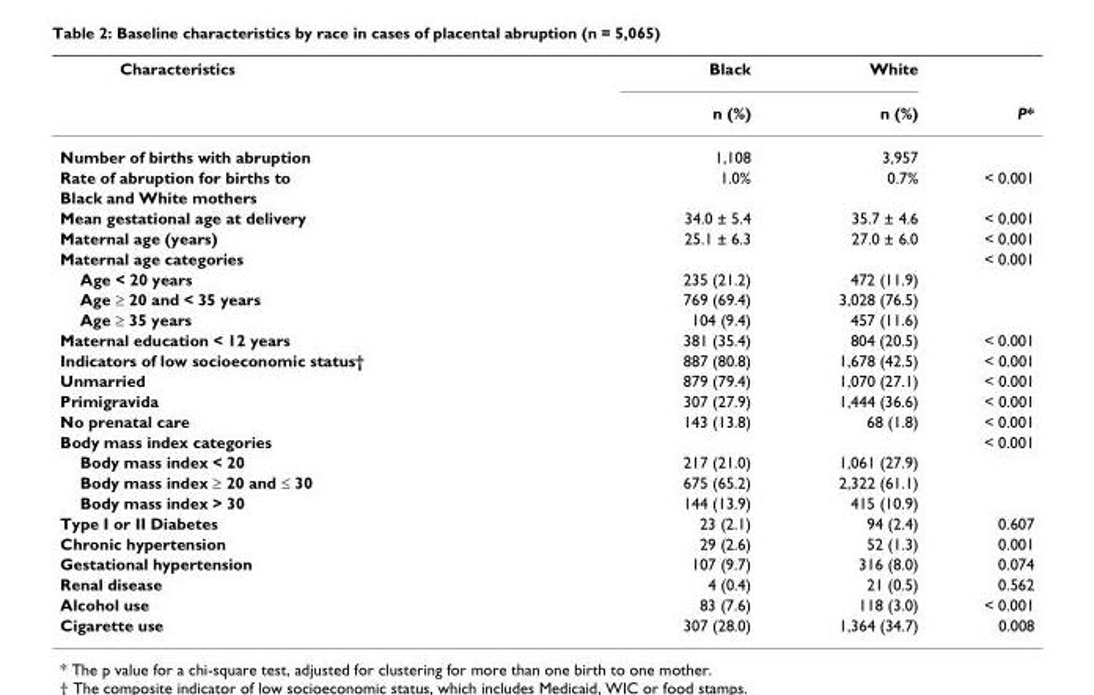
<table><thead><tr><td rowspan="2">Characteristics</td><td rowspan="2">Black n (%)</td><td rowspan="2">White n (%)</td><td rowspan="2">P*</td></tr><tr></tr></thead><tbody><tr><td>Number of births with abruption</td><td>1,108</td><td>3,957</td><td></td></tr><tr><td>Rate of abruption for births to</td><td>1.0%</td><td>0.7%</td><td>&lt; 0.001</td></tr><tr><td colspan="4">Black and White mothers</td></tr><tr><td>Mean gestational age at delivery</td><td>34.0 ± 5.4</td><td>35.7 ± 4.6</td><td>&lt; 0.001</td></tr><tr><td>Maternal age (years)</td><td>25.1 ± 6.3</td><td>27.0 ± 6.0</td><td>&lt; 0.001</td></tr><tr><td>Maternal age categories</td><td></td><td></td><td>&lt; 0.001</td></tr><tr><td>Age &lt; 20 years</td><td>235 (21.2)</td><td>472 (11.9)</td><td></td></tr><tr><td>Age ≥ 20 and &lt; 35 years</td><td>769 (69.4)</td><td>3,028 (76.5)</td><td></td></tr><tr><td>Age ≥ 35 years</td><td>104 (9.4)</td><td>457 (11.6)</td><td></td></tr><tr><td>Maternal education &lt; 12 years</td><td>381 (35.4)</td><td>804 (20.5)</td><td>&lt; 0.001</td></tr><tr><td>Indicators of low socioeconomic status†</td><td>887 (80.8)</td><td>1,678 (42.5)</td><td>&lt; 0.001</td></tr><tr><td>Unmarried</td><td>879 (79.4)</td><td>1,070 (27.1)</td><td>&lt; 0.001</td></tr><tr><td>Primigravida</td><td>307 (27.9)</td><td>1,444 (36.6)</td><td>&lt; 0.001</td></tr><tr><td>No prenatal care</td><td>143 (13.8)</td><td>68 (1.8)</td><td>&lt; 0.001</td></tr><tr><td>Body mass index categories</td><td></td><td></td><td>&lt; 0.001</td></tr><tr><td>Body mass index &lt; 20</td><td>217 (21.0)</td><td>1,061 (27.9)</td><td></td></tr><tr><td>Body mass index ≥ 20 and ≤ 30</td><td>675 (65.2)</td><td>2,322 (61.1)</td><td></td></tr><tr><td>Body mass index &gt; 30</td><td>144 (13.9)</td><td>415 (10.9)</td><td></td></tr><tr><td>Type I or II Diabetes</td><td>23 (2.1)</td><td>94 (2.4)</td><td>0.607</td></tr><tr><td>Chronic hypertension</td><td>29 (2.6)</td><td>52 (1.3)</td><td>0.001</td></tr><tr><td>Gestational hypertension</td><td>107 (9.7)</td><td>316 (8.0)</td><td>0.074</td></tr><tr><td>Renal disease</td><td>4 (0.4)</td><td>21 (0.5)</td><td>0.562</td></tr><tr><td>Alcohol use</td><td>83 (7.6)</td><td>118 (3.0)</td><td>&lt; 0.001</td></tr><tr><td>Cigarette use</td><td>307 (28.0)</td><td>1,364 (34.7)</td><td>0.008</td></tr></tbody></table>